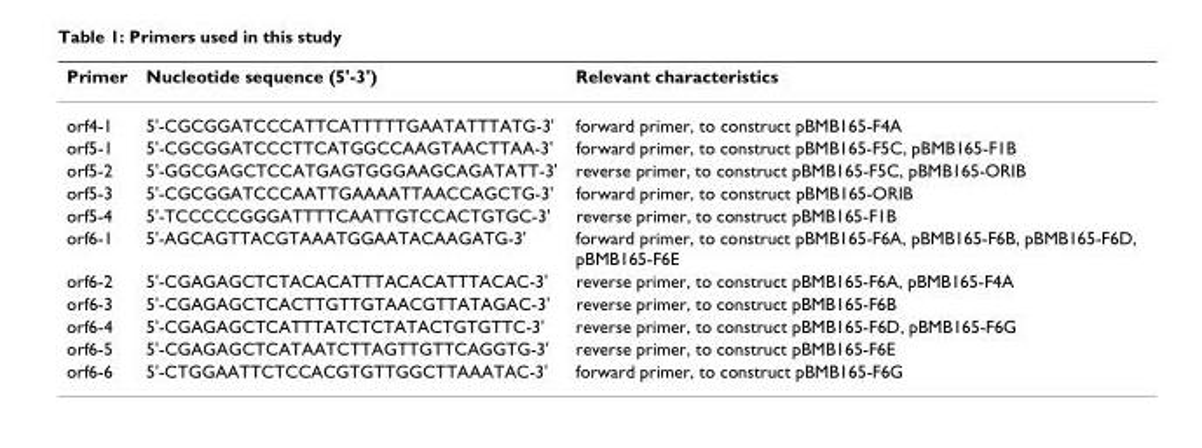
<table><thead><tr><td>Primer</td><td>Nucleotide sequence (5&#x27;-3&#x27;)</td><td>Relevant characteristics</td></tr></thead><tbody><tr><td>orf4-1</td><td>5&#x27;-CGCGGATCCCATTCATTTTTGAATATTTATG-3&#x27;</td><td>forward primer, to construct pBMB165-F4A</td></tr><tr><td>orf5-1</td><td>5&#x27;-CGCGGATCCCTTCATGGCCAAGTAACTTAA-3&#x27;</td><td>forward primer, to construct pBMB165-F5C, pBMB165-F1B</td></tr><tr><td>orf5-2</td><td>5&#x27;-GGCGAGCTCCATGAGTGGGAAGCAGATATT-3&#x27;</td><td>reverse primer, to construct pBMB165-F5C, pBMB165-ORIB</td></tr><tr><td>orf5-3</td><td>5&#x27;-CGCGGATCCCAATTGAAAATTAACCAGCTG-3&#x27;</td><td>forward primer, to construct pBMB165-ORIB</td></tr><tr><td>orf5-4</td><td>5&#x27;-TCCCCCGGGATTTTCAATTGTCCACTGTGC-3&#x27;</td><td>reverse primer, to construct pBMB165-F1B</td></tr><tr><td>orf6-1</td><td>5&#x27;-AGCAGTTACGTAAATGGAATACAAGATG-3&#x27;</td><td>forward primer, to construct pBMB165-F6A, pBMB165-F6B, pBMB165-F6D, pBMB165-F6E</td></tr><tr><td>orf6-2</td><td>5&#x27;-CGAGAGCTCTACACATTTACACATTTACAC-3&#x27;</td><td>reverse primer, to construct pBMB165-F6A, pBMB165-F4A</td></tr><tr><td>orf6-3</td><td>5&#x27;-CGAGAGCTCACTTGTTGTAACGTTATAGAC-3&#x27;</td><td>reverse primer, to construct pBMB165-F6B</td></tr><tr><td>orf6-4</td><td>5&#x27;-CGAGAGCTCATTTATCTCTATACTGTGTTC-3&#x27;</td><td>reverse primer, to construct pBMB165-F6D, pBMB165-F6G</td></tr><tr><td>orf6-5</td><td>5&#x27;-CGAGAGCTCATAATCTTAGTTGTTCAGGTG-3&#x27;</td><td>reverse primer, to construct pBMB165-F6E</td></tr><tr><td>orf6-6</td><td>5&#x27;-CTGGAATTCTCCACGTGTTGGCTTAAATAC-3&#x27;</td><td>forward primer, to construct pBMB165-F6G</td></tr></tbody></table>